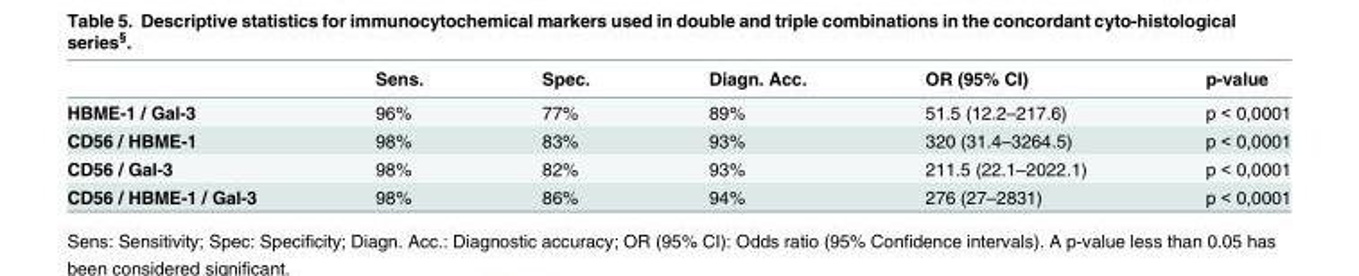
<table><thead><tr><td></td><td>Sens.</td><td>Spec.</td><td>Diagn. Acc.</td><td>OR (95% CI)</td><td>p-value</td></tr></thead><tbody><tr><td>HBME-1 / Gal-3</td><td>96%</td><td>77%</td><td>89%</td><td>51.5 (12.2–217.6)</td><td>p &lt; 0,0001</td></tr><tr><td>CD56 / HBME-1</td><td>98%</td><td>83%</td><td>93%</td><td>320 (31.4–3264.5)</td><td>p &lt; 0,0001</td></tr><tr><td>CD56 / Gal-3</td><td>98%</td><td>82%</td><td>93%</td><td>211.5 (22.1–2022.1)</td><td>p &lt; 0,0001</td></tr><tr><td>CD56 / HBME-1 / Gal-3</td><td>98%</td><td>86%</td><td>94%</td><td>276 (27–2831)</td><td>p &lt; 0,0001</td></tr></tbody></table>